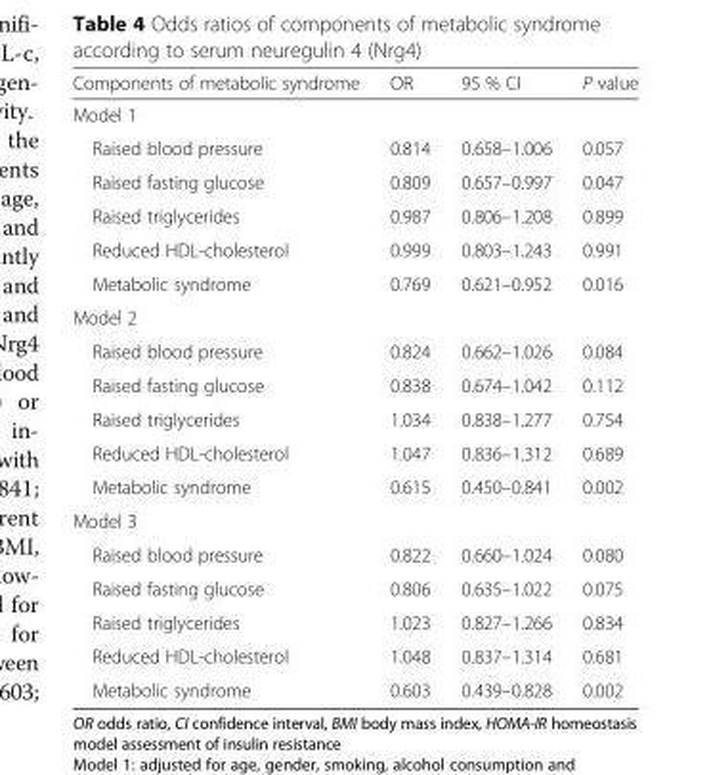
<table><thead><tr><td>Components of metabolic syndrome</td><td>OR</td><td>95 % CI</td><td>P value</td></tr></thead><tbody><tr><td colspan="4">Model 1</td></tr><tr><td>Raised blood pressure</td><td>0.814</td><td>0.658–1.006</td><td>0.057</td></tr><tr><td>Raised fasting glucose</td><td>0.809</td><td>0.657–0.997</td><td>0.047</td></tr><tr><td>Raised triglycerides</td><td>0.987</td><td>0.806–1.208</td><td>0.899</td></tr><tr><td>Reduced HDL-cholesterol</td><td>0.999</td><td>0.803–1.243</td><td>0.991</td></tr><tr><td>Metabolic syndrome</td><td>0.769</td><td>0.621–0.952</td><td>0.016</td></tr><tr><td colspan="4">Model 2</td></tr><tr><td>Raised blood pressure</td><td>0.824</td><td>0.662–1.026</td><td>0.084</td></tr><tr><td>Raised fasting glucose</td><td>0.838</td><td>0.674–1.042</td><td>0.112</td></tr><tr><td>Raised triglycerides</td><td>1.034</td><td>0.838–1.277</td><td>0.754</td></tr><tr><td>Reduced HDL-cholesterol</td><td>1.047</td><td>0.836–1.312</td><td>0.689</td></tr><tr><td>Metabolic syndrome</td><td>0.615</td><td>0.450–0.841</td><td>0.002</td></tr><tr><td colspan="4">Model 3</td></tr><tr><td>Raised blood pressure</td><td>0.822</td><td>0.660–1.024</td><td>0.080</td></tr><tr><td>Raised fasting glucose</td><td>0.806</td><td>0.635–1.022</td><td>0.075</td></tr><tr><td>Raised triglycerides</td><td>1.023</td><td>0.827–1.266</td><td>0.834</td></tr><tr><td>Reduced HDL-cholesterol</td><td>1.048</td><td>0.837–1.314</td><td>0.681</td></tr><tr><td>Metabolic syndrome</td><td>0.603</td><td>0.439–0.828</td><td>0.002</td></tr></tbody></table>